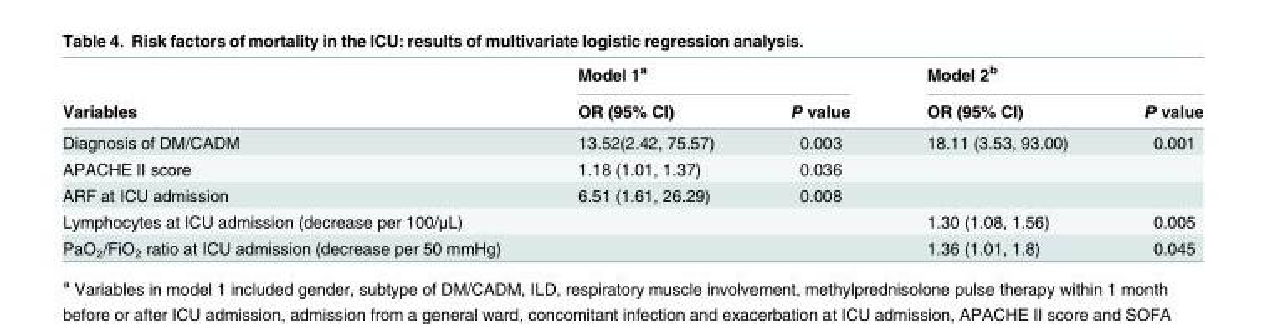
<table><thead><tr><td rowspan="2">Variables</td><td colspan="2">Model 1<sup>a</sup></td><td colspan="2">Model 2<sup>b</sup></td></tr><tr><td>OR (95% CI)</td><td>P value</td><td>OR (95% CI)</td><td>P value</td></tr></thead><tbody><tr><td>Diagnosis of DM/CADM</td><td>13.52(2.42, 75.57)</td><td>0.003</td><td>18.11 (3.53, 93.00)</td><td>0.001</td></tr><tr><td>APACHE II score</td><td>1.18 (1.01, 1.37)</td><td>0.036</td><td></td><td></td></tr><tr><td>ARF at ICU admission</td><td>6.51 (1.61, 26.29)</td><td>0.008</td><td></td><td></td></tr><tr><td>Lymphocytes at ICU admission (decrease per 100/μL)</td><td></td><td></td><td>1.30 (1.08, 1.56)</td><td>0.005</td></tr><tr><td>PaO<sub>2</sub>/FiO<sub>2</sub> ratio at ICU admission (decrease per 50 mmHg)</td><td></td><td></td><td>1.36 (1.01, 1.8)</td><td>0.045</td></tr></tbody></table>